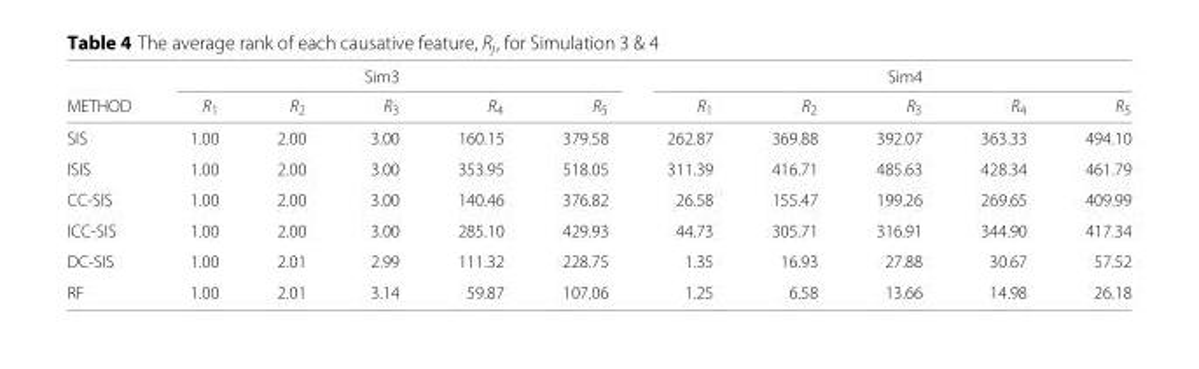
<table><thead><tr><td rowspan="2">METHOD</td><td rowspan="2">R<sub>1</sub></td><td rowspan="2">R<sub>2</sub></td><td rowspan="2">Sim3 R<sub>3</sub></td><td rowspan="2">R<sub>4</sub></td><td rowspan="2">R<sub>5</sub></td><td rowspan="2">R<sub>1</sub></td><td rowspan="2">R<sub>2</sub></td><td rowspan="2">Sim4 R<sub>3</sub></td><td rowspan="2">R<sub>4</sub></td><td rowspan="2">R<sub>5</sub></td></tr><tr></tr></thead><tbody><tr><td>SIS</td><td>1.00</td><td>2.00</td><td>3.00</td><td>160.15</td><td>379.58</td><td>262.87</td><td>369.88</td><td>392.07</td><td>363.33</td><td>494.10</td></tr><tr><td>ISIS</td><td>1.00</td><td>2.00</td><td>3.00</td><td>353.95</td><td>518.05</td><td>311.39</td><td>416.71</td><td>485.63</td><td>428.34</td><td>461.79</td></tr><tr><td>CC-SIS</td><td>1.00</td><td>2.00</td><td>3.00</td><td>140.46</td><td>376.82</td><td>26.58</td><td>155.47</td><td>199.26</td><td>269.65</td><td>409.99</td></tr><tr><td>ICC-SIS</td><td>1.00</td><td>2.00</td><td>3.00</td><td>285.10</td><td>429.93</td><td>44.73</td><td>305.71</td><td>316.91</td><td>344.90</td><td>417.34</td></tr><tr><td>DC-SIS</td><td>1.00</td><td>2.01</td><td>2.99</td><td>111.32</td><td>228.75</td><td>1.35</td><td>16.93</td><td>27.88</td><td>30.67</td><td>57.52</td></tr><tr><td>RF</td><td>1.00</td><td>2.01</td><td>3.14</td><td>59.87</td><td>107.06</td><td>1.25</td><td>6.58</td><td>13.66</td><td>14.98</td><td>26.18</td></tr></tbody></table>